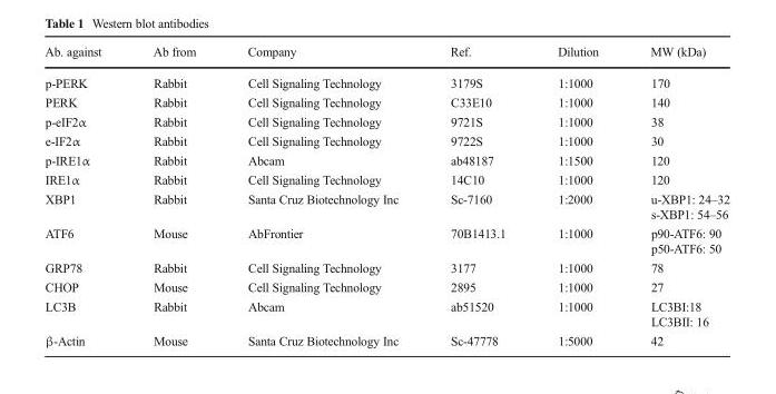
<table><thead><tr><td>Ab. against</td><td>Ab from</td><td>Company</td><td>Ref.</td><td>Dilution</td><td>MW (kDa)</td></tr></thead><tbody><tr><td>p-PERK</td><td>Rabbit</td><td>Cell Signaling Technology</td><td>3179S</td><td>1:1000</td><td>170</td></tr><tr><td>PERK</td><td>Rabbit</td><td>Cell Signaling Technology</td><td>C33E10</td><td>1:1000</td><td>140</td></tr><tr><td>p-eIF2α</td><td>Rabbit</td><td>Cell Signaling Technology</td><td>9721S</td><td>1:1000</td><td>38</td></tr><tr><td>e-IF2α</td><td>Rabbit</td><td>Cell Signaling Technology</td><td>9722S</td><td>1:1000</td><td>30</td></tr><tr><td>p-IRE1α</td><td>Rabbit</td><td>Abcam</td><td>ab48187</td><td>1:1500</td><td>120</td></tr><tr><td>IRE1α</td><td>Rabbit</td><td>Cell Signaling Technology</td><td>14C10</td><td>1:1000</td><td>120</td></tr><tr><td>XBP1</td><td>Rabbit</td><td>Santa Cruz Biotechnology Inc</td><td>Sc-7160</td><td>1:2000</td><td>u-XBP1: 24–32 s-XBP1: 54–56</td></tr><tr><td>ATF6</td><td>Mouse</td><td>AbFrontier</td><td>70B1413.1</td><td>1:1000</td><td>p90-ATF6: 90 p50-ATF6: 50</td></tr><tr><td>GRP78</td><td>Rabbit</td><td>Cell Signaling Technology</td><td>3177</td><td>1:1000</td><td>78</td></tr><tr><td>CHOP</td><td>Mouse</td><td>Cell Signaling Technology</td><td>2895</td><td>1:1000</td><td>27</td></tr><tr><td>LC3B</td><td>Rabbit</td><td>Abcam</td><td>ab51520</td><td>1:1000</td><td>LC3BI:18 LC3BII: 16</td></tr><tr><td>β-Actin</td><td>Mouse</td><td>Santa Cruz Biotechnology Inc</td><td>Sc-47778</td><td>1:5000</td><td>42</td></tr></tbody></table>